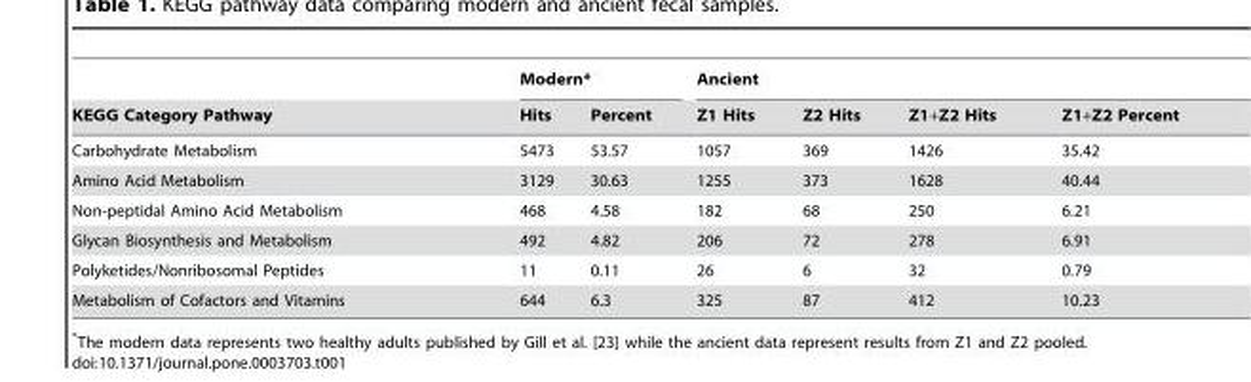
<table><thead><tr><td rowspan="2">KEGG Category Pathway</td><td colspan="2">Modern*</td><td colspan="4">Ancient</td></tr><tr><td>Hits</td><td>Percent</td><td>Z1 Hits</td><td>Z2 Hits</td><td>Z1+Z2 Hits</td><td>Z1+Z2 Percent</td></tr></thead><tbody><tr><td>Carbohydrate Metabolism</td><td>5473</td><td>53.57</td><td>1057</td><td>369</td><td>1426</td><td>35.42</td></tr><tr><td>Amino Acid Metabolism</td><td>3129</td><td>30.63</td><td>1255</td><td>373</td><td>1628</td><td>40.44</td></tr><tr><td>Non-peptidal Amino Acid Metabolism</td><td>468</td><td>4.58</td><td>182</td><td>68</td><td>250</td><td>6.21</td></tr><tr><td>Glycan Biosynthesis and Metabolism</td><td>492</td><td>4.82</td><td>206</td><td>72</td><td>278</td><td>6.91</td></tr><tr><td>Polyketides/Nonribosomal Peptides</td><td>11</td><td>0.11</td><td>26</td><td>6</td><td>32</td><td>0.79</td></tr><tr><td>Metabolism of Cofactors and Vitamins</td><td>644</td><td>6.3</td><td>325</td><td>87</td><td>412</td><td>10.23</td></tr></tbody></table>